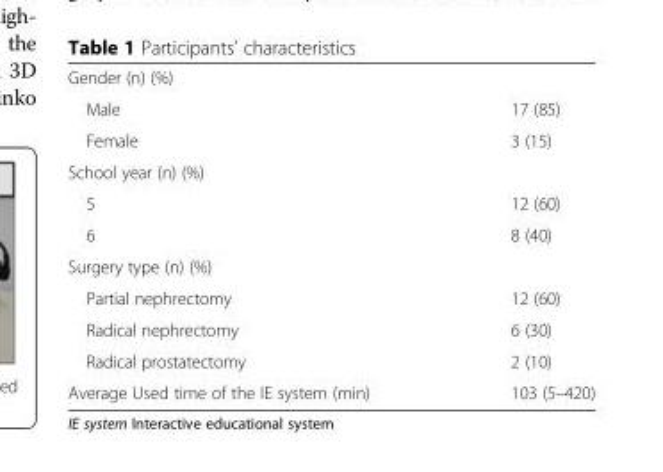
<table><tbody><tr><td colspan="2">Gender (n) (%)</td></tr><tr><td>Male</td><td>17 (85)</td></tr><tr><td>Female</td><td>3 (15)</td></tr><tr><td colspan="2">School year (n) (%)</td></tr><tr><td>5</td><td>12 (60)</td></tr><tr><td>6</td><td>8 (40)</td></tr><tr><td colspan="2">Surgery type (n) (%)</td></tr><tr><td>Partial nephrectomy</td><td>12 (60)</td></tr><tr><td>Radical nephrectomy</td><td>6 (30)</td></tr><tr><td>Radical prostatectomy</td><td>2 (10)</td></tr><tr><td>Average Used time of the IE system (min)</td><td>103 (5–420)</td></tr></tbody></table>